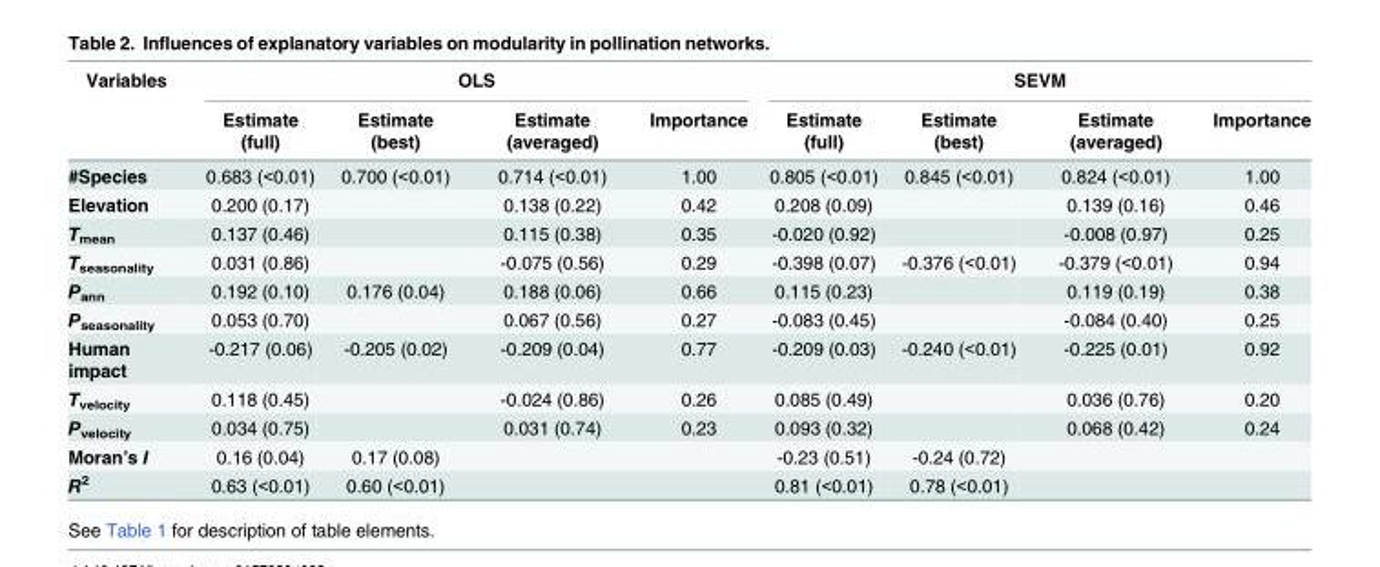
<table><thead><tr><td rowspan="2">Variables</td><td colspan="4">OLS</td><td colspan="4">SEVM</td></tr><tr><td>Estimate (full)</td><td>Estimate (best)</td><td>Estimate (averaged)</td><td>Importance</td><td>Estimate (full)</td><td>Estimate (best)</td><td>Estimate (averaged)</td><td>Importance</td></tr></thead><tbody><tr><td>#Species</td><td>0.683 (&lt;0.01)</td><td>0.700 (&lt;0.01)</td><td>0.714 (&lt;0.01)</td><td>1.00</td><td>0.805 (&lt;0.01)</td><td>0.845 (&lt;0.01)</td><td>0.824 (&lt;0.01)</td><td>1.00</td></tr><tr><td>Elevation</td><td>0.200 (0.17)</td><td></td><td>0.138 (0.22)</td><td>0.42</td><td>0.208 (0.09)</td><td></td><td>0.139 (0.16)</td><td>0.46</td></tr><tr><td>T<sub>mean</sub></td><td>0.137 (0.46)</td><td></td><td>0.115 (0.38)</td><td>0.35</td><td>-0.020 (0.92)</td><td></td><td>-0.008 (0.97)</td><td>0.25</td></tr><tr><td>T<sub>seasonality</sub></td><td>0.031 (0.86)</td><td></td><td>-0.075 (0.56)</td><td>0.29</td><td>-0.398 (0.07)</td><td>-0.376 (&lt;0.01)</td><td>-0.379 (&lt;0.01)</td><td>0.94</td></tr><tr><td>P<sub>ann</sub></td><td>0.192 (0.10)</td><td>0.176 (0.04)</td><td>0.188 (0.06)</td><td>0.66</td><td>0.115 (0.23)</td><td></td><td>0.119 (0.19)</td><td>0.38</td></tr><tr><td>P<sub>seasonality</sub></td><td>0.053 (0.70)</td><td></td><td>0.067 (0.56)</td><td>0.27</td><td>-0.083 (0.45)</td><td></td><td>-0.084 (0.40)</td><td>0.25</td></tr><tr><td>Human impact</td><td>-0.217 (0.06)</td><td>-0.205 (0.02)</td><td>-0.209 (0.04)</td><td>0.77</td><td>-0.209 (0.03)</td><td>-0.240 (&lt;0.01)</td><td>-0.225 (0.01)</td><td>0.92</td></tr><tr><td>T<sub>velocity</sub></td><td>0.118 (0.45)</td><td></td><td>-0.024 (0.86)</td><td>0.26</td><td>0.085 (0.49)</td><td></td><td>0.036 (0.76)</td><td>0.20</td></tr><tr><td>P<sub>velocity</sub></td><td>0.034 (0.75)</td><td></td><td>0.031 (0.74)</td><td>0.23</td><td>0.093 (0.32)</td><td></td><td>0.068 (0.42)</td><td>0.24</td></tr><tr><td>Moran’s I</td><td>0.16 (0.04)</td><td>0.17 (0.08)</td><td></td><td></td><td>-0.23 (0.51)</td><td>-0.24 (0.72)</td><td></td><td></td></tr><tr><td>R<sup>2</sup></td><td>0.63 (&lt;0.01)</td><td>0.60 (&lt;0.01)</td><td></td><td></td><td>0.81 (&lt;0.01)</td><td>0.78 (&lt;0.01)</td><td></td><td></td></tr></tbody></table>